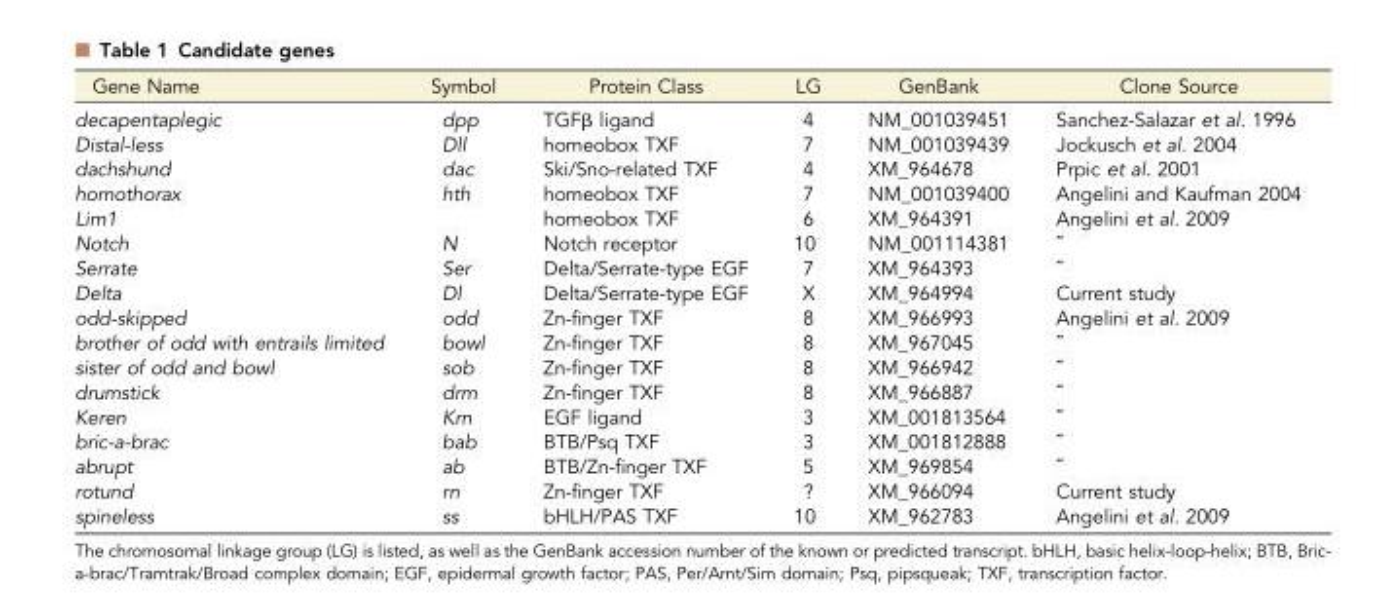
<table><thead><tr><td>Gene Name</td><td>Symbol</td><td>Protein Class</td><td>LG</td><td>GenBank</td><td>Clone Source</td></tr></thead><tbody><tr><td>decapentaplegic</td><td>dpp</td><td>TGFβ ligand</td><td>4</td><td>NM_001039451</td><td>Sanchez-Salazar et al. 1996</td></tr><tr><td>Distal-less</td><td>Dll</td><td>homeobox TXF</td><td>7</td><td>NM_001039439</td><td>Jockusch et al. 2004</td></tr><tr><td>dachshund</td><td>dac</td><td>Ski/Sno-related TXF</td><td>4</td><td>XM_964678</td><td>Prpic et al. 2001</td></tr><tr><td>homothorax</td><td>hth</td><td>homeobox TXF</td><td>7</td><td>NM_001039400</td><td>Angelini and Kaufman 2004</td></tr><tr><td>Lim1</td><td></td><td>homeobox TXF</td><td>6</td><td>XM_964391</td><td>Angelini et al. 2009</td></tr><tr><td>Notch</td><td>N</td><td>Notch receptor</td><td>10</td><td>NM_001114381</td><td>˝</td></tr><tr><td>Serrate</td><td>Ser</td><td>Delta/Serrate-type EGF</td><td>7</td><td>XM_964393</td><td>˝</td></tr><tr><td>Delta</td><td>Dl</td><td>Delta/Serrate-type EGF</td><td>X</td><td>XM_964994</td><td>Current study</td></tr><tr><td>odd-skipped</td><td>odd</td><td>Zn-finger TXF</td><td>8</td><td>XM_966993</td><td>Angelini et al. 2009</td></tr><tr><td>brother of odd with entrails limited</td><td>bowl</td><td>Zn-finger TXF</td><td>8</td><td>XM_967045</td><td>˝</td></tr><tr><td>sister of odd and bowl</td><td>sob</td><td>Zn-finger TXF</td><td>8</td><td>XM_966942</td><td>˝</td></tr><tr><td>drumstick</td><td>drm</td><td>Zn-finger TXF</td><td>8</td><td>XM_966887</td><td>˝</td></tr><tr><td>Keren</td><td>Krn</td><td>EGF ligand</td><td>3</td><td>XM_001813564</td><td>˝</td></tr><tr><td>bric-a-brac</td><td>bab</td><td>BTB/Psq TXF</td><td>3</td><td>XM_001812888</td><td>˝</td></tr><tr><td>abrupt</td><td>ab</td><td>BTB/Zn-finger TXF</td><td>5</td><td>XM_969854</td><td>˝</td></tr><tr><td>rotund</td><td>rn</td><td>Zn-finger TXF</td><td>?</td><td>XM_966094</td><td>Current study</td></tr><tr><td>spineless</td><td>ss</td><td>bHLH/PAS TXF</td><td>10</td><td>XM_962783</td><td>Angelini et al. 2009</td></tr></tbody></table>